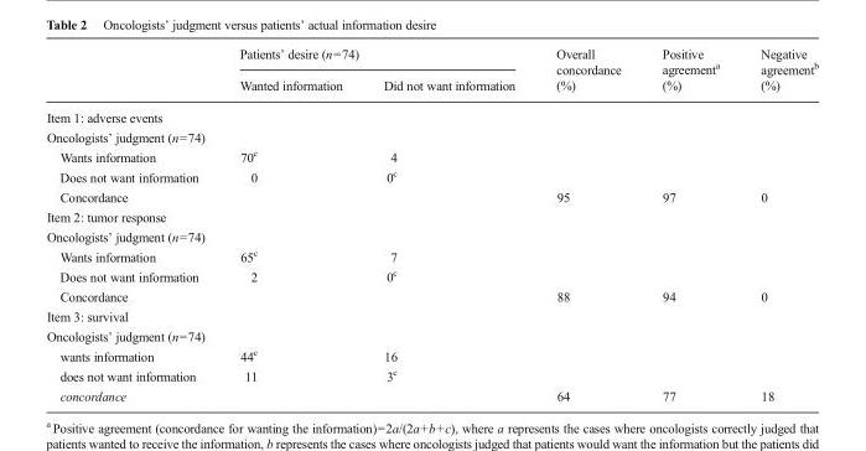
<table><thead><tr><td rowspan="2"></td><td colspan="2">Patients’ desire (n=74)</td><td rowspan="2">Overall concordance (%)</td><td rowspan="2">Positive agreement<sup>a</sup> (%)</td><td rowspan="2">Negative agreement<sup>b</sup> (%)</td></tr><tr><td>Wanted information</td><td>Did not want information</td></tr></thead><tbody><tr><td colspan="6">Item 1: adverse events</td></tr><tr><td colspan="6">Oncologists’ judgment (n=74)</td></tr><tr><td>Wants information</td><td>70<sup>c</sup></td><td>4</td><td></td><td></td><td></td></tr><tr><td>Does not want information</td><td>0</td><td>0<sup>c</sup></td><td></td><td></td><td></td></tr><tr><td>Concordance</td><td></td><td></td><td>95</td><td>97</td><td>0</td></tr><tr><td colspan="6">Item 2: tumor response</td></tr><tr><td colspan="6">Oncologists’ judgment (n=74)</td></tr><tr><td>Wants information</td><td>65<sup>c</sup></td><td>7</td><td></td><td></td><td></td></tr><tr><td>Does not want information</td><td>2</td><td>0<sup>c</sup></td><td></td><td></td><td></td></tr><tr><td>Concordance</td><td></td><td></td><td>88</td><td>94</td><td>0</td></tr><tr><td colspan="6">Item 3: survival</td></tr><tr><td colspan="6">Oncologists’ judgment (n=74)</td></tr><tr><td>wants information</td><td>44<sup>c</sup></td><td>16</td><td></td><td></td><td></td></tr><tr><td>does not want information</td><td>11</td><td>3<sup>c</sup></td><td></td><td></td><td></td></tr><tr><td>concordance</td><td></td><td></td><td>64</td><td>77</td><td>18</td></tr></tbody></table>